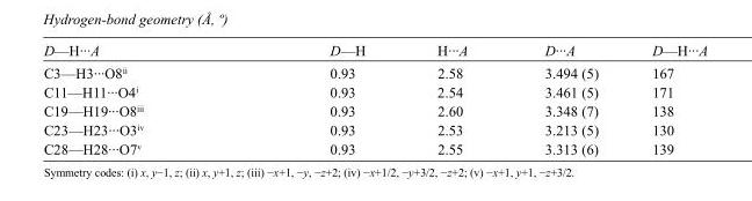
<table><tbody><tr><td>D—H···A</td><td>D—H</td><td>H···A</td><td>D···A</td><td>D—H···A</td></tr><tr><td>C3—H3···O8<sup>ii</sup></td><td>0.93</td><td>2.58</td><td>3.494 (5)</td><td>167</td></tr><tr><td>C11—H11···O4<sup>i</sup></td><td>0.93</td><td>2.54</td><td>3.461 (5)</td><td>171</td></tr><tr><td>C19—H19···O8<sup>iii</sup></td><td>0.93</td><td>2.60</td><td>3.348 (7)</td><td>138</td></tr><tr><td>C23—H23···O3<sup>iv</sup></td><td>0.93</td><td>2.53</td><td>3.213 (5)</td><td>130</td></tr><tr><td>C28—H28···O7<sup>v</sup></td><td>0.93</td><td>2.55</td><td>3.313 (6)</td><td>139</td></tr></tbody></table>